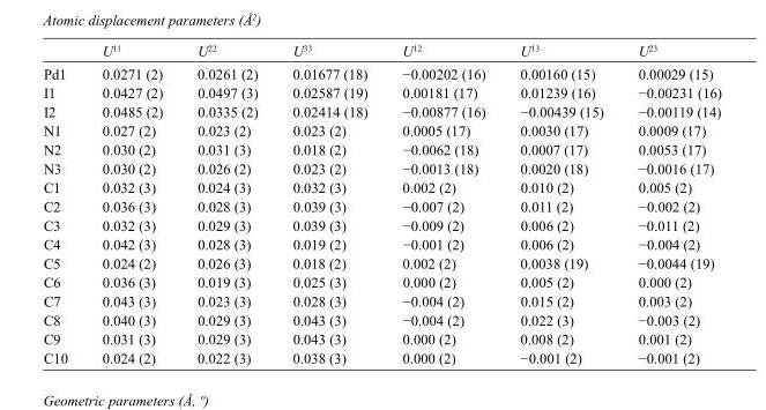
<table><thead><tr><td></td><td>U<sup>11</sup></td><td>U<sup>22</sup></td><td>U<sup>33</sup></td><td>U<sup>12</sup></td><td>U<sup>13</sup></td><td>U<sup>23</sup></td></tr></thead><tbody><tr><td>Pd1</td><td>0.0271 (2)</td><td>0.0261 (2)</td><td>0.01677 (18)</td><td>−0.00202 (16)</td><td>0.00160 (15)</td><td>0.00029 (15)</td></tr><tr><td>I1</td><td>0.0427 (2)</td><td>0.0497 (3)</td><td>0.02587 (19)</td><td>0.00181 (17)</td><td>0.01239 (16)</td><td>−0.00231 (16)</td></tr><tr><td>I2</td><td>0.0485 (2)</td><td>0.0335 (2)</td><td>0.02414 (18)</td><td>−0.00877 (16)</td><td>−0.00439 (15)</td><td>−0.00119 (14)</td></tr><tr><td>N1</td><td>0.027 (2)</td><td>0.023 (2)</td><td>0.023 (2)</td><td>0.0005 (17)</td><td>0.0030 (17)</td><td>0.0009 (17)</td></tr><tr><td>N2</td><td>0.030 (2)</td><td>0.031 (3)</td><td>0.018 (2)</td><td>−0.0062 (18)</td><td>0.0007 (17)</td><td>0.0053 (17)</td></tr><tr><td>N3</td><td>0.030 (2)</td><td>0.026 (2)</td><td>0.023 (2)</td><td>−0.0013 (18)</td><td>0.0020 (18)</td><td>−0.0016 (17)</td></tr><tr><td>C1</td><td>0.032 (3)</td><td>0.024 (3)</td><td>0.032 (3)</td><td>0.002 (2)</td><td>0.010 (2)</td><td>0.005 (2)</td></tr><tr><td>C2</td><td>0.036 (3)</td><td>0.028 (3)</td><td>0.039 (3)</td><td>−0.007 (2)</td><td>0.011 (2)</td><td>−0.002 (2)</td></tr><tr><td>C3</td><td>0.032 (3)</td><td>0.029 (3)</td><td>0.039 (3)</td><td>−0.009 (2)</td><td>0.006 (2)</td><td>−0.011 (2)</td></tr><tr><td>C4</td><td>0.042 (3)</td><td>0.028 (3)</td><td>0.019 (2)</td><td>−0.001 (2)</td><td>0.006 (2)</td><td>−0.004 (2)</td></tr><tr><td>C5</td><td>0.024 (2)</td><td>0.026 (3)</td><td>0.018 (2)</td><td>0.002 (2)</td><td>0.0038 (19)</td><td>−0.0044 (19)</td></tr><tr><td>C6</td><td>0.036 (3)</td><td>0.019 (3)</td><td>0.025 (3)</td><td>0.000 (2)</td><td>0.005 (2)</td><td>0.000 (2)</td></tr><tr><td>C7</td><td>0.043 (3)</td><td>0.023 (3)</td><td>0.028 (3)</td><td>−0.004 (2)</td><td>0.015 (2)</td><td>0.003 (2)</td></tr><tr><td>C8</td><td>0.040 (3)</td><td>0.029 (3)</td><td>0.043 (3)</td><td>−0.004 (2)</td><td>0.022 (3)</td><td>−0.003 (2)</td></tr><tr><td>C9</td><td>0.031 (3)</td><td>0.029 (3)</td><td>0.043 (3)</td><td>0.000 (2)</td><td>0.008 (2)</td><td>0.001 (2)</td></tr><tr><td>C10</td><td>0.024 (2)</td><td>0.022 (3)</td><td>0.038 (3)</td><td>0.000 (2)</td><td>−0.001 (2)</td><td>−0.001 (2)</td></tr></tbody></table>